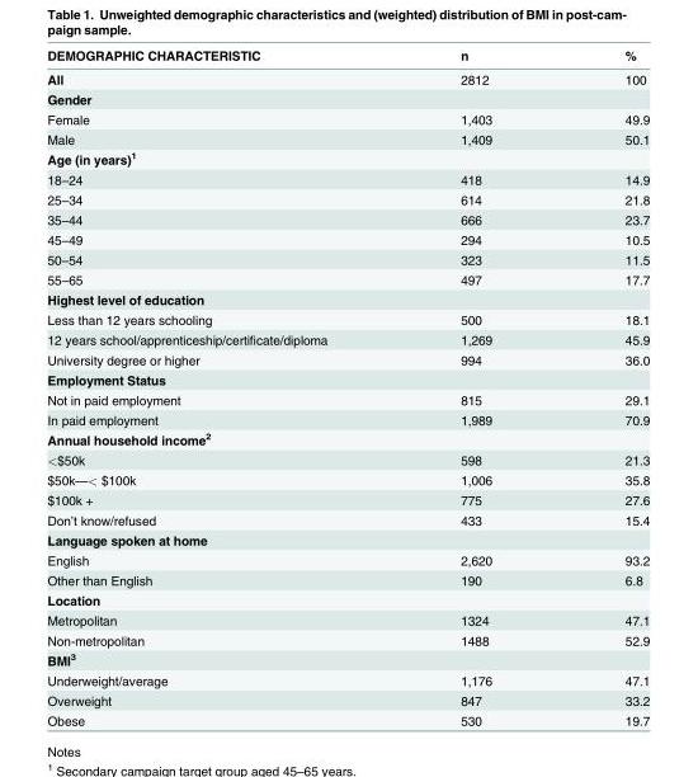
<table><thead><tr><td>DEMOGRAPHIC CHARACTERISTIC</td><td>n</td><td>%</td></tr></thead><tbody><tr><td>All</td><td>2812</td><td>100</td></tr><tr><td colspan="3">Gender</td></tr><tr><td>Female</td><td>1,403</td><td>49.9</td></tr><tr><td>Male</td><td>1,409</td><td>50.1</td></tr><tr><td colspan="3">Age (in years)<sup>1</sup></td></tr><tr><td>18–24</td><td>418</td><td>14.9</td></tr><tr><td>25–34</td><td>614</td><td>21.8</td></tr><tr><td>35–44</td><td>666</td><td>23.7</td></tr><tr><td>45–49</td><td>294</td><td>10.5</td></tr><tr><td>50–54</td><td>323</td><td>11.5</td></tr><tr><td>55–65</td><td>497</td><td>17.7</td></tr><tr><td colspan="3">Highest level of education</td></tr><tr><td>Less than 12 years schooling</td><td>500</td><td>18.1</td></tr><tr><td>12 years school/apprenticeship/certificate/diploma</td><td>1,269</td><td>45.9</td></tr><tr><td>University degree or higher</td><td>994</td><td>36.0</td></tr><tr><td colspan="3">Employment Status</td></tr><tr><td>Not in paid employment</td><td>815</td><td>29.1</td></tr><tr><td>In paid employment</td><td>1,989</td><td>70.9</td></tr><tr><td colspan="3">Annual household income<sup>2</sup></td></tr><tr><td>&lt;$50k</td><td>598</td><td>21.3</td></tr><tr><td>$50k—&lt; $100k</td><td>1,006</td><td>35.8</td></tr><tr><td>$100k +</td><td>775</td><td>27.6</td></tr><tr><td>Don’t know/refused</td><td>433</td><td>15.4</td></tr><tr><td colspan="3">Language spoken at home</td></tr><tr><td>English</td><td>2,620</td><td>93.2</td></tr><tr><td>Other than English</td><td>190</td><td>6.8</td></tr><tr><td colspan="3">Location</td></tr><tr><td>Metropolitan</td><td>1324</td><td>47.1</td></tr><tr><td>Non-metropolitan</td><td>1488</td><td>52.9</td></tr><tr><td colspan="3">BMI<sup>3</sup></td></tr><tr><td>Underweight/average</td><td>1,176</td><td>47.1</td></tr><tr><td>Overweight</td><td>847</td><td>33.2</td></tr><tr><td>Obese</td><td>530</td><td>19.7</td></tr></tbody></table>